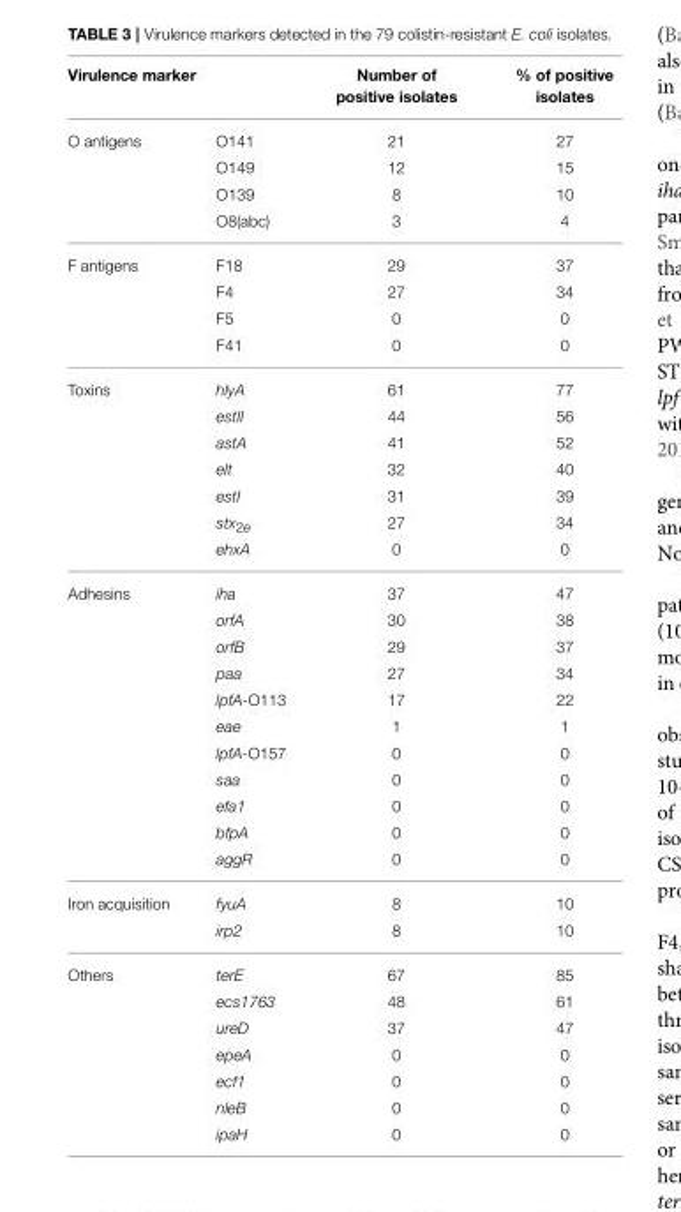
<table><thead><tr><td colspan="2">Virulence marker</td><td rowspan="2">Number of positive isolates 21</td><td rowspan="2">% of positive isolates 27</td></tr><tr><td>O antigens</td><td>O141</td></tr></thead><tbody><tr><td></td><td>O149</td><td>12</td><td>15</td></tr><tr><td></td><td>O139</td><td>8</td><td>10</td></tr><tr><td></td><td>O8(abc)</td><td>3</td><td>4</td></tr><tr><td rowspan="4">F antigens</td><td>F18</td><td>29</td><td>37</td></tr><tr><td>F4</td><td>27</td><td>34</td></tr><tr><td>F5</td><td>0</td><td>0</td></tr><tr><td>F41</td><td>0</td><td>0</td></tr><tr><td rowspan="7">Toxins</td><td>hlyA</td><td>61</td><td>77</td></tr><tr><td>estII</td><td>44</td><td>56</td></tr><tr><td>astA</td><td>41</td><td>52</td></tr><tr><td>elt</td><td>32</td><td>40</td></tr><tr><td>estI</td><td>31</td><td>39</td></tr><tr><td>stx2e</td><td>27</td><td>34</td></tr><tr><td>ehxA</td><td>0</td><td>0</td></tr><tr><td rowspan="11">Adhesins</td><td>iha</td><td>37</td><td>47</td></tr><tr><td>orfA</td><td>30</td><td>38</td></tr><tr><td>orfB</td><td>29</td><td>37</td></tr><tr><td>paa</td><td>27</td><td>34</td></tr><tr><td>lpfA-O113</td><td>17</td><td>22</td></tr><tr><td>eae</td><td>1</td><td>1</td></tr><tr><td>lpfA-O157</td><td>0</td><td>0</td></tr><tr><td>saa</td><td>0</td><td>0</td></tr><tr><td>efa1</td><td>0</td><td>0</td></tr><tr><td>bfpA</td><td>0</td><td>0</td></tr><tr><td>aggR</td><td>0</td><td>0</td></tr><tr><td rowspan="2">Iron acquisition</td><td>fyuA</td><td>8</td><td>10</td></tr><tr><td>irp2</td><td>8</td><td>10</td></tr><tr><td rowspan="7">Others</td><td>terE</td><td>67</td><td>85</td></tr><tr><td>ecs1763</td><td>48</td><td>61</td></tr><tr><td>ureD</td><td>37</td><td>47</td></tr><tr><td>epeA</td><td>0</td><td>0</td></tr><tr><td>ecf1</td><td>0</td><td>0</td></tr><tr><td>nleB</td><td>0</td><td>0</td></tr><tr><td>ipaH</td><td>0</td><td>0</td></tr></tbody></table>